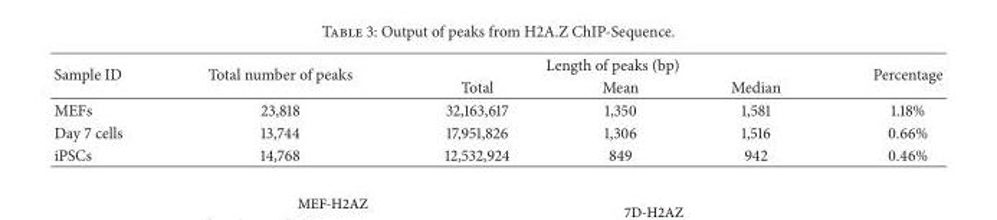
<table><thead><tr><td rowspan="2">Sample ID</td><td rowspan="2">Total number of peaks</td><td colspan="3">Length of peaks (bp)</td><td rowspan="2">Percentage</td></tr><tr><td>Total</td><td>Mean</td><td>Median</td></tr></thead><tbody><tr><td>MEFs</td><td>23,818</td><td>32,163,617</td><td>1,350</td><td>1,581</td><td>1.18%</td></tr><tr><td>Day 7 cells</td><td>13,744</td><td>17,951,826</td><td>1,306</td><td>1,516</td><td>0.66%</td></tr><tr><td>iPSCs</td><td>14,768</td><td>12,532,924</td><td>849</td><td>942</td><td>0.46%</td></tr></tbody></table>